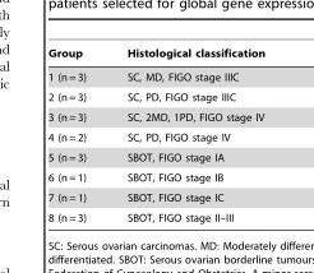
<table><thead><tr><td>Group</td><td>Histological classification</td></tr></thead><tbody><tr><td>1 (n = 3)</td><td>SC, MD, FIGO stage IIIC</td></tr><tr><td>2 (n = 3)</td><td>SC, PD, FIGO stage IIIC</td></tr><tr><td>3 (n = 3)</td><td>SC, 2MD, 1PD, FIGO stage IV</td></tr><tr><td>4 (n = 2)</td><td>SC, PD, FIGO stage IV</td></tr><tr><td>5 (n = 3)</td><td>SBOT, FIGO stage IA</td></tr><tr><td>6 (n = 1)</td><td>SBOT, FIGO stage IB</td></tr><tr><td>7 (n = 1)</td><td>SBOT, FIGO stage IC</td></tr><tr><td>8 (n = 3)</td><td>SBOT, FIGO stage II–III</td></tr></tbody></table>